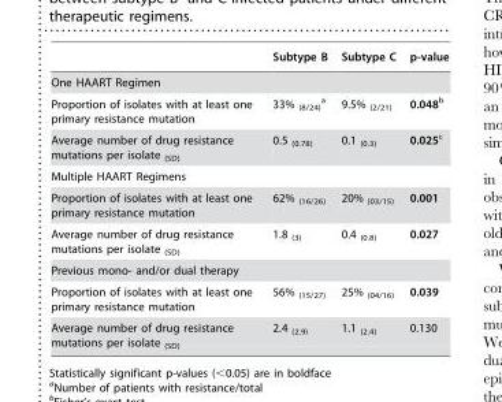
<table><thead><tr><td></td><td>Subtype B</td><td>Subtype C</td><td>p-value</td></tr></thead><tbody><tr><td colspan="4">One HAART Regimen</td></tr><tr><td>Proportion of isolates with at least one primary resistance mutation</td><td>33% <sub>(8/24)</sub> a</td><td>9.5% <sub>(2/21)</sub></td><td>0.048b</td></tr><tr><td>Average number of drug resistance mutations per isolate <sub>(SD)</sub></td><td>0.5 <sub>(0.78)</sub></td><td>0.1 <sub>(0.3)</sub></td><td>0.025c</td></tr><tr><td colspan="4">Multiple HAART Regimens</td></tr><tr><td>Proportion of isolates with at least one primary resistance mutation</td><td>62% <sub>(16/26)</sub></td><td>20% <sub>(03/15)</sub></td><td>0.001</td></tr><tr><td>Average number of drug resistance mutations per isolate <sub>(SD)</sub></td><td>1.8 <sub>(3)</sub></td><td>0.4 <sub>(0.8)</sub></td><td>0.027</td></tr><tr><td colspan="4">Previous mono- and/or dual therapy</td></tr><tr><td>Proportion of isolates with at least one primary resistance mutation</td><td>56% <sub>(15/27)</sub></td><td>25% <sub>(04/16)</sub></td><td>0.039</td></tr><tr><td>Average number of drug resistance mutations per isolate <sub>(SD)</sub></td><td>2.4 <sub>(2.9)</sub></td><td>1.1 <sub>(2.4)</sub></td><td>0.130</td></tr></tbody></table>